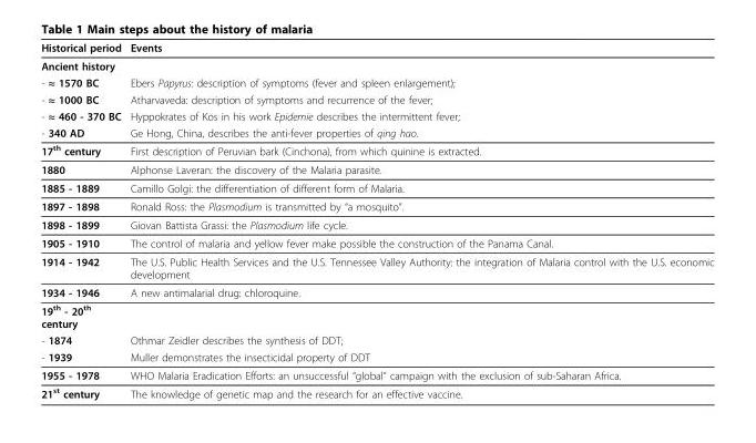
<table><thead><tr><td>Historical period</td><td>Events</td></tr></thead><tbody><tr><td colspan="2">Ancient history</td></tr><tr><td>- ≈ 1570 BC</td><td>Ebers Papyrus: description of symptoms (fever and spleen enlargement);</td></tr><tr><td>- ≈ 1000 BC</td><td>Atharvaveda: description of symptoms and recurrence of the fever;</td></tr><tr><td>- ≈ 460 - 370 BC</td><td>Hyppokrates of Kos in his work Epidemie describes the intermittent fever;</td></tr><tr><td>- 340 AD</td><td>Ge Hong, China, describes the anti-fever properties of qing hao.</td></tr><tr><td>17th century</td><td>First description of Peruvian bark (Cinchona), from which quinine is extracted.</td></tr><tr><td>1880</td><td>Alphonse Laveran: the discovery of the Malaria parasite.</td></tr><tr><td>1885 - 1889</td><td>Camillo Golgi: the differentiation of different form of Malaria.</td></tr><tr><td>1897 - 1898</td><td>Ronald Ross: the Plasmodium is transmitted by “a mosquito”.</td></tr><tr><td>1898 - 1899</td><td>Giovan Battista Grassi: the Plasmodium life cycle.</td></tr><tr><td>1905 - 1910</td><td>The control of malaria and yellow fever make possible the construction of the Panama Canal.</td></tr><tr><td>1914 - 1942</td><td>The U.S. Public Health Services and the U.S. Tennessee Valley Authority: the integration of Malaria control with the U.S. economic development</td></tr><tr><td>1934 - 1946</td><td>A new antimalarial drug: chloroquine.</td></tr><tr><td colspan="2">19th - 20th century</td></tr><tr><td>- 1874</td><td>Othmar Zeidler describes the synthesis of DDT;</td></tr><tr><td>- 1939</td><td>Muller demonstrates the insecticidal property of DDT</td></tr><tr><td>1955 - 1978</td><td>WHO Malaria Eradication Efforts: an unsuccessful “global” campaign with the exclusion of sub-Saharan Africa.</td></tr><tr><td>21st century</td><td>The knowledge of genetic map and the research for an effective vaccine.</td></tr></tbody></table>